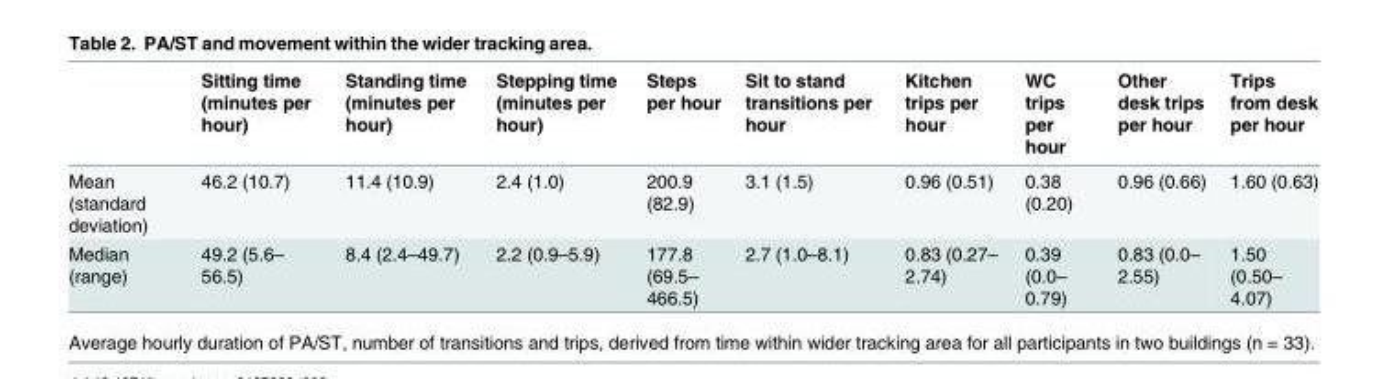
<table><thead><tr><td></td><td>Sitting time (minutes per hour)</td><td>Standing time (minutes per hour)</td><td>Stepping time (minutes per hour)</td><td>Steps per hour</td><td>Sit to stand transitions per hour</td><td>Kitchen trips per hour</td><td>WC trips per hour</td><td>Other desk trips per hour</td><td>Trips from desk per hour</td></tr></thead><tbody><tr><td>Mean (standard deviation)</td><td>46.2 (10.7)</td><td>11.4 (10.9)</td><td>2.4 (1.0)</td><td>200.9 (82.9)</td><td>3.1 (1.5)</td><td>0.96 (0.51)</td><td>0.38 (0.20)</td><td>0.96 (0.66)</td><td>1.60 (0.63)</td></tr><tr><td>Median (range)</td><td>49.2 (5.6– 56.5)</td><td>8.4 (2.4–49.7)</td><td>2.2 (0.9–5.9)</td><td>177.8 (69.5– 466.5)</td><td>2.7 (1.0–8.1)</td><td>0.83 (0.27– 2.74)</td><td>0.39 (0.0– 0.79)</td><td>0.83 (0.0– 2.55)</td><td>1.50 (0.50– 4.07)</td></tr></tbody></table>